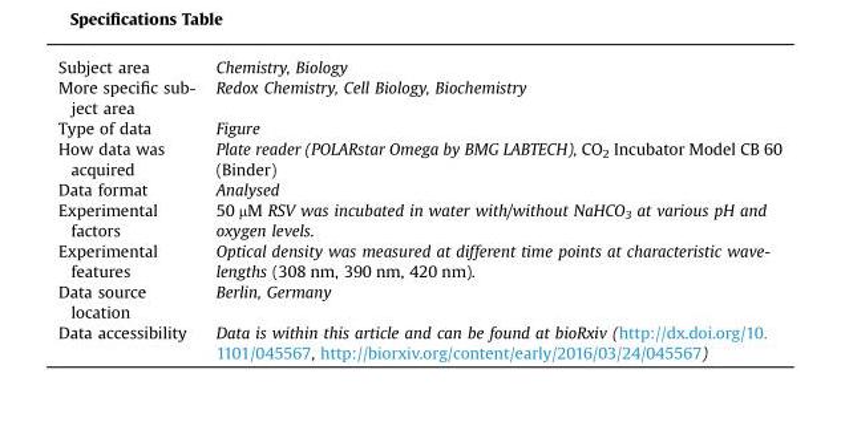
<table><tbody><tr><td>Subject area</td><td>Chemistry, Biology</td></tr><tr><td>More specific sub- ject area</td><td>Redox Chemistry, Cell Biology, Biochemistry</td></tr><tr><td>Type of data</td><td>Figure</td></tr><tr><td>How data was acquired</td><td>Plate reader (POLARstar Omega by BMG LABTECH), CO<sub>2</sub> Incubator Model CB 60 (Binder)</td></tr><tr><td>Data format</td><td>Analysed</td></tr><tr><td>Experimental factors</td><td>50 µM RSV was incubated in water with/without NaHCO<sub>3</sub> at various pH and oxygen levels.</td></tr><tr><td>Experimental features</td><td>Optical density was measured at different time points at characteristic wave- lengths (308 nm, 390 nm, 420 nm).</td></tr><tr><td>Data source location</td><td>Berlin, Germany</td></tr><tr><td>Data accessibility</td><td>Data is within this article and can be found at bioRxiv (http://dx.doi.org/10. 1101/045567, http://biorxiv.org/content/early/2016/03/24/045567)</td></tr></tbody></table>